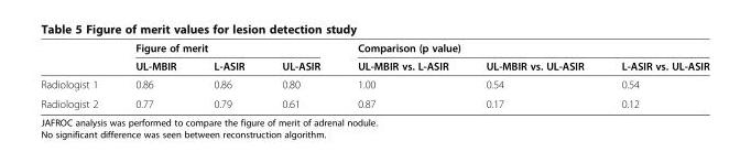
<table><thead><tr><td rowspan="2"></td><td colspan="3">Figure of merit</td><td colspan="3">Comparison (p value)</td></tr><tr><td>UL-MBIR</td><td>L-ASIR</td><td>UL-ASIR</td><td>UL-MBIR vs. L-ASIR</td><td>UL-MBIR vs. UL-ASIR</td><td>L-ASIR vs. UL-ASIR</td></tr></thead><tbody><tr><td>Radiologist 1</td><td>0.86</td><td>0.86</td><td>0.80</td><td>1.00</td><td>0.54</td><td>0.54</td></tr><tr><td>Radiologist 2</td><td>0.77</td><td>0.79</td><td>0.61</td><td>0.87</td><td>0.17</td><td>0.12</td></tr></tbody></table>